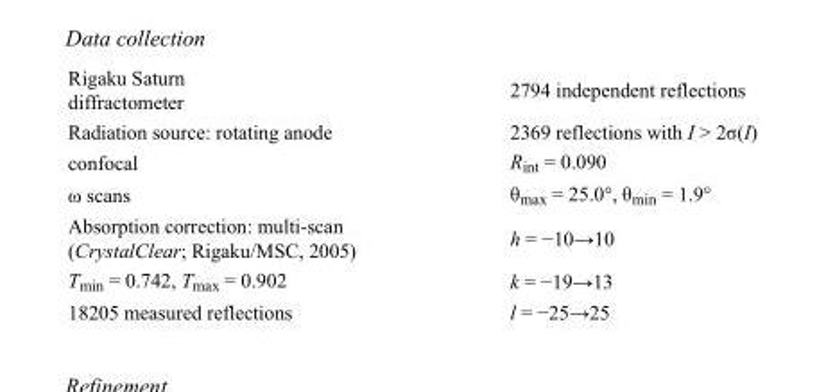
<table><tbody><tr><td>Rigaku Saturn diffractometer</td><td>2794 independent reflections</td></tr><tr><td>Radiation source: rotating anode</td><td>2369 reflections with I &gt; 2σ(I)</td></tr><tr><td>confocal</td><td>R<sub>int</sub> = 0.090</td></tr><tr><td>ω scans</td><td>θ<sub>max</sub> = 25.0°, θ<sub>min</sub> = 1.9°</td></tr><tr><td>Absorption correction: multi-scan (CrystalClear; Rigaku/MSC, 2005)</td><td>h = −10→10</td></tr><tr><td>T<sub>min</sub> = 0.742, T<sub>max</sub> = 0.902</td><td>k = −19→13</td></tr><tr><td>18205 measured reflections</td><td>l = −25→25</td></tr></tbody></table>